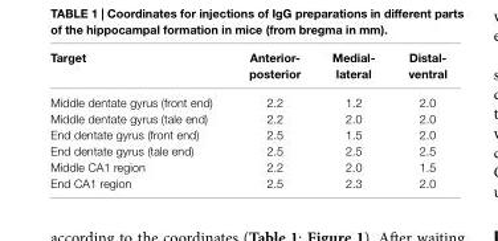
<table><thead><tr><td>target</td><td>Anterior- posterior</td><td>Medial- lateral</td><td>distal- ventral</td></tr></thead><tbody><tr><td>Middle dentate gyrus (front end)</td><td>2.2</td><td>1.2</td><td>2.0</td></tr><tr><td>Middle dentate gyrus (tale end)</td><td>2.2</td><td>2.0</td><td>2.0</td></tr><tr><td>End dentate gyrus (front end)</td><td>2.5</td><td>1.5</td><td>2.0</td></tr><tr><td>End dentate gyrus (tale end)</td><td>2.5</td><td>2.5</td><td>2.5</td></tr><tr><td>Middle CA1 region</td><td>2.2</td><td>2.0</td><td>1.5</td></tr><tr><td>End CA1 region</td><td>2.5</td><td>2.3</td><td>2.0</td></tr></tbody></table>